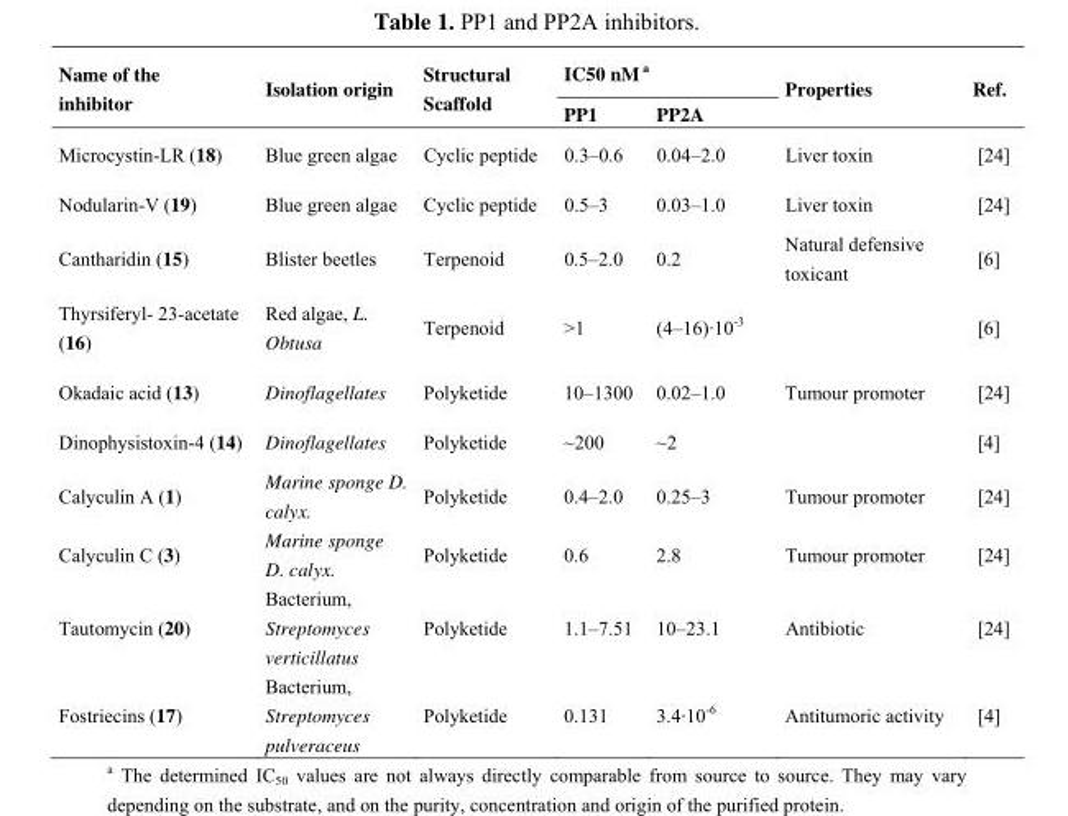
<table><thead><tr><td rowspan="2">Name of the inhibitor</td><td rowspan="2">Isolation origin</td><td rowspan="2">Structural Scaffold</td><td colspan="2">IC50 nM a</td><td rowspan="2">Properties</td><td rowspan="2">Ref.</td></tr><tr><td>PP1</td><td>PP2A</td></tr></thead><tbody><tr><td>Microcystin-LR (18)</td><td>Blue green algae</td><td>Cyclic peptide</td><td>0.3–0.6</td><td>0.04–2.0</td><td>Liver toxin</td><td>[24]</td></tr><tr><td>Nodularin-V (19)</td><td>Blue green algae</td><td>Cyclic peptide</td><td>0.5–3</td><td>0.03–1.0</td><td>Liver toxin</td><td>[24]</td></tr><tr><td>Cantharidin (15)</td><td>Blister beetles</td><td>Terpenoid</td><td>0.5–2.0</td><td>0.2</td><td>Natural defensive toxicant</td><td>[6]</td></tr><tr><td>Thyrsiferyl- 23-acetate (16)</td><td>Red algae, L. Obtusa</td><td>Terpenoid</td><td>&gt;1</td><td>(4–16)·10<sup>-3</sup></td><td></td><td>[6]</td></tr><tr><td>Okadaic acid (13)</td><td>Dinoflagellates</td><td>Polyketide</td><td>10–1300</td><td>0.02–1.0</td><td>Tumour promoter</td><td>[24]</td></tr><tr><td>Dinophysistoxin-4 (14)</td><td>Dinoflagellates</td><td>Polyketide</td><td>~200</td><td>~2</td><td></td><td>[4]</td></tr><tr><td>Calyculin A (1)</td><td>Marine sponge D. calyx.</td><td>Polyketide</td><td>0.4–2.0</td><td>0.25–3</td><td>Tumour promoter</td><td>[24]</td></tr><tr><td>Calyculin C (3)</td><td>Marine sponge D. calyx.</td><td>Polyketide</td><td>0.6</td><td>2.8</td><td>Tumour promoter</td><td>[24]</td></tr><tr><td>Tautomycin (20)</td><td>Bacterium, Streptomyces verticillatus</td><td>Polyketide</td><td>1.1–7.51</td><td>10–23.1</td><td>Antibiotic</td><td>[24]</td></tr><tr><td>Fostriecins (17)</td><td>Bacterium, Streptomyces pulveraceus</td><td>Polyketide</td><td>0.131</td><td>3.4·10<sup>-6</sup></td><td>Antitumoric activity</td><td>[4]</td></tr></tbody></table>